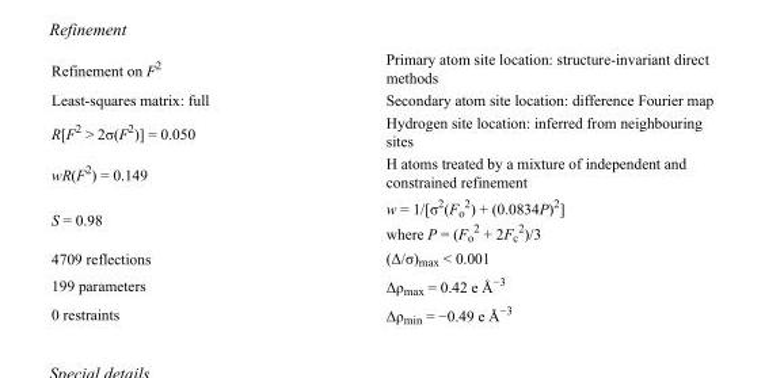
<table><tbody><tr><td>Refinement on F<sup>2</sup></td><td>Primary atom site location: structure-invariant direct methods</td></tr><tr><td>Least-squares matrix: full</td><td>Secondary atom site location: difference Fourier map</td></tr><tr><td>R[F<sup>2</sup> &gt; 2σ(F<sup>2</sup>)] = 0.050</td><td>Hydrogen site location: inferred from neighbouring sites</td></tr><tr><td>wR(F<sup>2</sup>) = 0.149</td><td>H atoms treated by a mixture of independent and constrained refinement</td></tr><tr><td>S = 0.98</td><td>w = 1/[σ<sup>2</sup>(F<sub>o</sub> <sup>2</sup>) + (0.0834P)<sup>2</sup>] where P = (F<sub>o</sub> <sup>2</sup> + 2F<sub>c</sub> <sup>2</sup>)/3</td></tr><tr><td>4709 reflections</td><td>(Δ/σ)<sub>max</sub> &lt; 0.001</td></tr><tr><td>199 parameters</td><td>Δρ<sub>max</sub> = 0.42 e Å<sup>−3</sup></td></tr><tr><td>0 restraints</td><td>Δρmin = −0.49 e Å−3</td></tr></tbody></table>